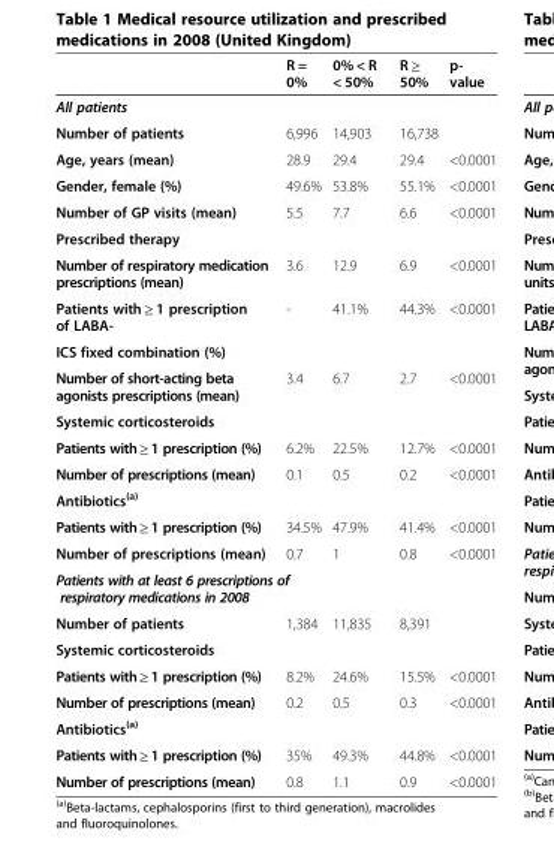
<table><thead><tr><td></td><td>R = 0%</td><td>0% &lt; R &lt; 50%</td><td>R ≥ 50%</td><td>p- value</td></tr></thead><tbody><tr><td colspan="5">All patients</td></tr><tr><td>Number of patients</td><td>6,996</td><td>14,903</td><td>16,738</td><td></td></tr><tr><td>Age, years (mean)</td><td>28.9</td><td>29.4</td><td>29.4</td><td>&lt;0.0001</td></tr><tr><td>Gender, female (%)</td><td>49.6%</td><td>53.8%</td><td>55.1%</td><td>&lt;0.0001</td></tr><tr><td>Number of GP visits (mean)</td><td>5.5</td><td>7.7</td><td>6.6</td><td>&lt;0.0001</td></tr><tr><td colspan="5">Prescribed therapy</td></tr><tr><td>Number of respiratory medication prescriptions (mean)</td><td>3.6</td><td>12.9</td><td>6.9</td><td>&lt;0.0001</td></tr><tr><td>Patients with ≥ 1 prescription of LABA-</td><td>-</td><td>41.1%</td><td>44.3%</td><td>&lt;0.0001</td></tr><tr><td colspan="5">ICS fixed combination (%)</td></tr><tr><td>Number of short-acting beta agonists prescriptions (mean)</td><td>3.4</td><td>6.7</td><td>2.7</td><td>&lt;0.0001</td></tr><tr><td colspan="5">Systemic corticosteroids</td></tr><tr><td>Patients with ≥ 1 prescription (%)</td><td>6.2%</td><td>22.5%</td><td>12.7%</td><td>&lt;0.0001</td></tr><tr><td>Number of prescriptions (mean)</td><td>0.1</td><td>0.5</td><td>0.2</td><td>&lt;0.0001</td></tr><tr><td colspan="5">Antibiotics<sup>(a)</sup></td></tr><tr><td>Patients with ≥ 1 prescription (%)</td><td>34.5%</td><td>47.9%</td><td>41.4%</td><td>&lt;0.0001</td></tr><tr><td>Number of prescriptions (mean)</td><td>0.7</td><td>1</td><td>0.8</td><td>&lt;0.0001</td></tr><tr><td colspan="5">Patients with at least 6 prescriptions of respiratory medications in 2008</td></tr><tr><td>Number of patients</td><td>1,384</td><td>11,835</td><td>8,391</td><td></td></tr><tr><td colspan="5">Systemic corticosteroids</td></tr><tr><td>Patients with ≥ 1 prescription (%)</td><td>8.2%</td><td>24.6%</td><td>15.5%</td><td>&lt;0.0001</td></tr><tr><td>Number of prescriptions (mean)</td><td>0.2</td><td>0.5</td><td>0.3</td><td>&lt;0.0001</td></tr><tr><td colspan="5">Antibiotics<sup>(a)</sup></td></tr><tr><td>Patients with ≥ 1 prescription (%)</td><td>35%</td><td>49.3%</td><td>44.8%</td><td>&lt;0.0001</td></tr><tr><td>Number of prescriptions (mean)</td><td>0.8</td><td>1.1</td><td>0.9</td><td>&lt;0.0001</td></tr></tbody></table>